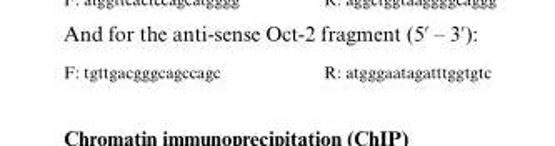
<table><tbody><tr><td>F: tgttgacgggcagccagc</td><td>R: atgggaatagatttggtgtc</td></tr></tbody></table>